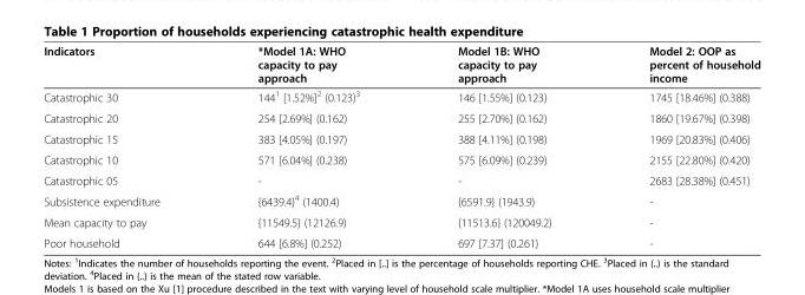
<table><thead><tr><td>Indicators</td><td>*Model 1A: WHO capacity to pay approach</td><td>Model 1B: WHO capacity to pay approach</td><td>Model 2: OOP as percent of household income</td></tr></thead><tbody><tr><td>Catastrophic 30</td><td>144<sup>1</sup> [1.52%]<sup>2</sup> (0.123)<sup>3</sup></td><td>146 [1.55%] (0.123)</td><td>1745 [18.46%] (0.388)</td></tr><tr><td>Catastrophic 20</td><td>254 [2.69%] (0.162)</td><td>255 [2.70%] (0.162)</td><td>1860 [19.67%] (0.398)</td></tr><tr><td>Catastrophic 15</td><td>383 [4.05%] (0.197)</td><td>388 [4.11%] (0.198)</td><td>1969 [20.83%] (0.406)</td></tr><tr><td>Catastrophic 10</td><td>571 [6.04%] (0.238)</td><td>575 [6.09%] (0.239)</td><td>2155 [22.80%] (0.420)</td></tr><tr><td>Catastrophic 05</td><td>-</td><td>-</td><td>2683 [28.38%] (0.451)</td></tr><tr><td>Subsistence expenditure</td><td>{6439.4}<sup>4</sup> (1400.4)</td><td>{6591.9} (1943.9)</td><td>-</td></tr><tr><td>Mean capacity to pay</td><td>{11549.5} (12126.9)</td><td>{11513.6} (120049.2)</td><td>-</td></tr><tr><td>Poor household</td><td>644 [6.8%] (0.252)</td><td>697 [7.37] (0.261)</td><td>-</td></tr></tbody></table>